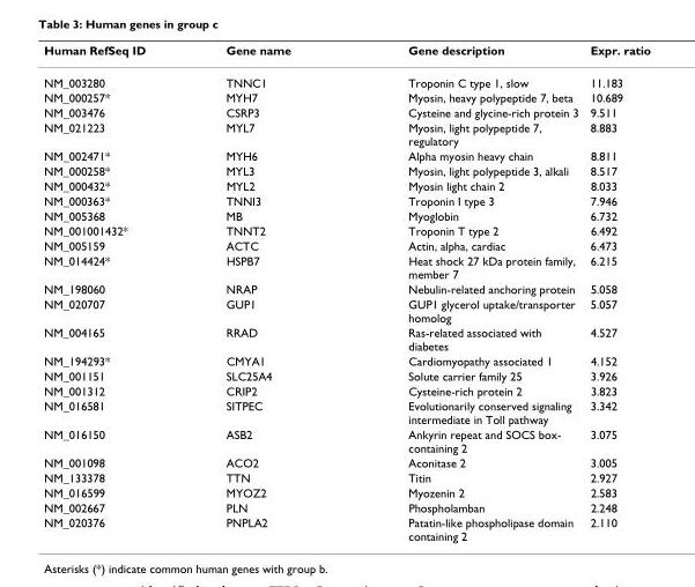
<table><thead><tr><td>Human RefSeq ID</td><td>Gene name</td><td>Gene description</td><td>Expr. ratio</td></tr></thead><tbody><tr><td>NM_003280</td><td>TNNC1</td><td>Troponin C type 1, slow</td><td>11.183</td></tr><tr><td>NM_000257*</td><td>MYH7</td><td>Myosin, heavy polypeptide 7, beta</td><td>10.689</td></tr><tr><td>NM_003476</td><td>CSRP3</td><td>Cysteine and glycine-rich protein 3</td><td>9.511</td></tr><tr><td>NM_021223</td><td>MYL7</td><td>Myosin, light polypeptide 7, regulatory</td><td>8.883</td></tr><tr><td>NM_002471*</td><td>MYH6</td><td>Alpha myosin heavy chain</td><td>8.811</td></tr><tr><td>NM_000258*</td><td>MYL3</td><td>Myosin, light polypeptide 3, alkali</td><td>8.517</td></tr><tr><td>NM_000432*</td><td>MYL2</td><td>Myosin light chain 2</td><td>8.033</td></tr><tr><td>NM_000363*</td><td>TNNI3</td><td>Troponin I type 3</td><td>7.946</td></tr><tr><td>NM_005368</td><td>MB</td><td>Myoglobin</td><td>6.732</td></tr><tr><td>NM_001001432*</td><td>TNNT2</td><td>Troponin T type 2</td><td>6.492</td></tr><tr><td>NM_005159</td><td>ACTC</td><td>Actin, alpha, cardiac</td><td>6.473</td></tr><tr><td>NM_014424*</td><td>HSPB7</td><td>Heat shock 27 kDa protein family, member 7</td><td>6.215</td></tr><tr><td>NM_198060</td><td>NRAP</td><td>Nebulin-related anchoring protein</td><td>5.058</td></tr><tr><td>NM_020707</td><td>GUP1</td><td>GUP1 glycerol uptake/transporter homolog</td><td>5.057</td></tr><tr><td>NM_004165</td><td>RRAD</td><td>Ras-related associated with diabetes</td><td>4.527</td></tr><tr><td>NM_194293*</td><td>CMYA1</td><td>Cardiomyopathy associated 1</td><td>4.152</td></tr><tr><td>NM_001151</td><td>SLC25A4</td><td>Solute carrier family 25</td><td>3.926</td></tr><tr><td>NM_001312</td><td>CRIP2</td><td>Cysteine-rich protein 2</td><td>3.823</td></tr><tr><td>NM_016581</td><td>SITPEC</td><td>Evolutionarily conserved signaling intermediate in Toll pathway</td><td>3.342</td></tr><tr><td>NM_016150</td><td>ASB2</td><td>Ankyrin repeat and SOCS box- containing 2</td><td>3.075</td></tr><tr><td>NM_001098</td><td>ACO2</td><td>Aconitase 2</td><td>3.005</td></tr><tr><td>NM_133378</td><td>TTN</td><td>Titin</td><td>2.927</td></tr><tr><td>NM_016599</td><td>MYOZ2</td><td>Myozenin 2</td><td>2.583</td></tr><tr><td>NM_002667</td><td>PLN</td><td>Phospholamban</td><td>2.248</td></tr><tr><td>NM_020376</td><td>PNPLA2</td><td>Patatin-like phospholipase domain containing 2</td><td>2.110</td></tr></tbody></table>